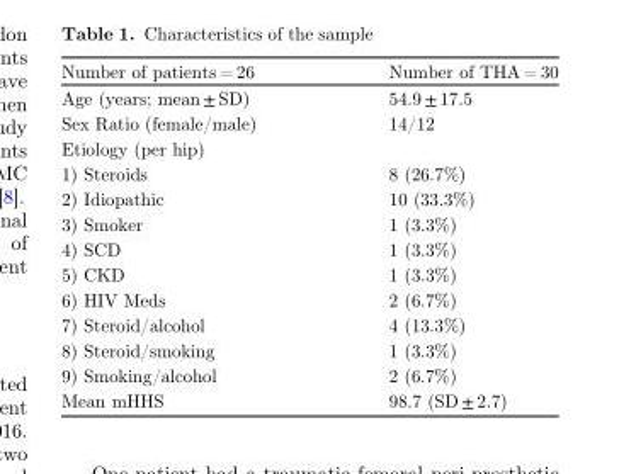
<table><thead><tr><td>Number of patients = 26</td><td>Number of THA = 30</td></tr></thead><tbody><tr><td>Age (years; mean ± SD)</td><td>54.9 ± 17.5</td></tr><tr><td>Sex Ratio (female/male)</td><td>14/12</td></tr><tr><td colspan="2">Etiology (per hip)</td></tr><tr><td>1) Steroids</td><td>8 (26.7%)</td></tr><tr><td>2) Idiopathic</td><td>10 (33.3%)</td></tr><tr><td>3) Smoker</td><td>1 (3.3%)</td></tr><tr><td>4) SCD</td><td>1 (3.3%)</td></tr><tr><td>5) CKD</td><td>1 (3.3%)</td></tr><tr><td>6) HIV Meds</td><td>2 (6.7%)</td></tr><tr><td>7) Steroid/alcohol</td><td>4 (13.3%)</td></tr><tr><td>8) Steroid/smoking</td><td>1 (3.3%)</td></tr><tr><td>9) Smoking/alcohol</td><td>2 (6.7%)</td></tr><tr><td>Mean mHHS</td><td>98.7 (SD ± 2.7)</td></tr></tbody></table>